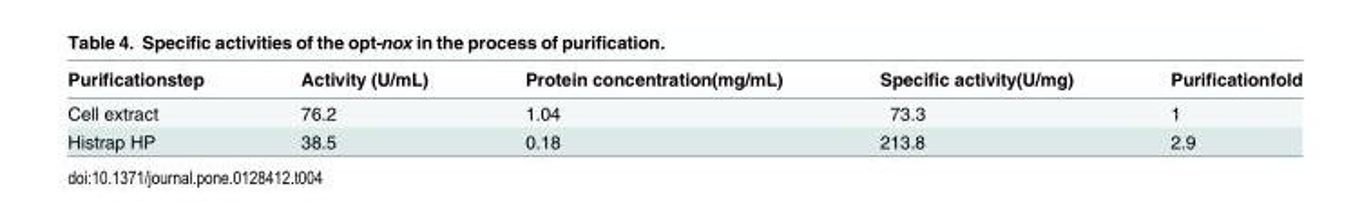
<table><thead><tr><td>Purificationstep</td><td>Activity (U/mL)</td><td>Protein concentration(mg/mL)</td><td>Specific activity(U/mg)</td><td>Purificationfold</td></tr></thead><tbody><tr><td>Cell extract</td><td>76.2</td><td>1.04</td><td>73.3</td><td>1</td></tr><tr><td>Histrap HP</td><td>38.5</td><td>0.18</td><td>213.8</td><td>2.9</td></tr></tbody></table>